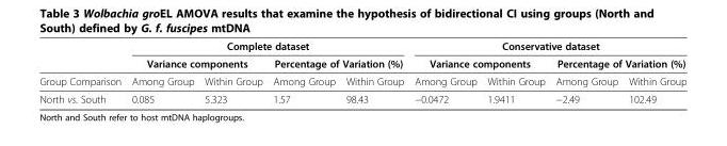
<table><thead><tr><td rowspan="3">Group Comparison</td><td colspan="4">Complete dataset</td><td colspan="4">Conservative dataset</td></tr><tr><td colspan="2">Variance components</td><td colspan="2">Percentage of Variation (%)</td><td colspan="2">Variance components</td><td colspan="2">Percentage of Variation (%)</td></tr><tr><td>Among Group</td><td>Within Group</td><td>Among Group</td><td>Within Group</td><td>Among Group</td><td>Within Group</td><td>Among Group</td><td>Within Group</td></tr></thead><tbody><tr><td>North vs. South</td><td>0.085</td><td>5.323</td><td>1.57</td><td>98.43</td><td>−0.0472</td><td>1.9411</td><td>−2.49</td><td>102.49</td></tr></tbody></table>